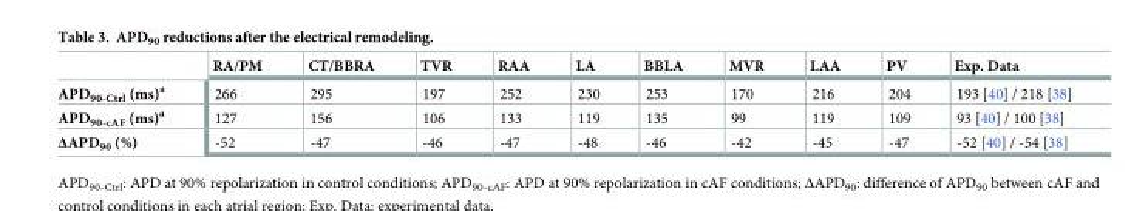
<table><thead><tr><td></td><td>RA/PM</td><td>CT/BBRA</td><td>TVR</td><td>RAA</td><td>LA</td><td>BBLA</td><td>MVR</td><td>LAA</td><td>PV</td><td>Exp. Data</td></tr></thead><tbody><tr><td>APD<sub>90-Ctrl</sub> (ms)<sup>a</sup></td><td>266</td><td>295</td><td>197</td><td>252</td><td>230</td><td>253</td><td>170</td><td>216</td><td>204</td><td>193 [40] / 218 [38]</td></tr><tr><td>APD<sub>90-cAF</sub> (ms)<sup>a</sup></td><td>127</td><td>156</td><td>106</td><td>133</td><td>119</td><td>135</td><td>99</td><td>119</td><td>109</td><td>93 [40] / 100 [38]</td></tr><tr><td>ΔAPD<sub>90</sub> (%)</td><td>-52</td><td>-47</td><td>-46</td><td>-47</td><td>-48</td><td>-46</td><td>-42</td><td>-45</td><td>-47</td><td>-52 [40] / -54 [38]</td></tr></tbody></table>